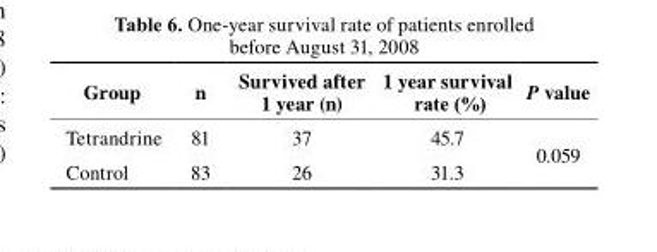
<table><thead><tr><td>Group</td><td>n</td><td>survived after 1 year (n)</td><td>1 year survival rate (%)</td><td>P value</td></tr></thead><tbody><tr><td>Tetrandrine</td><td>81</td><td>37</td><td>45.7</td><td rowspan="2">0.059</td></tr><tr><td>Control</td><td>83</td><td>26</td><td>31.3</td></tr></tbody></table>